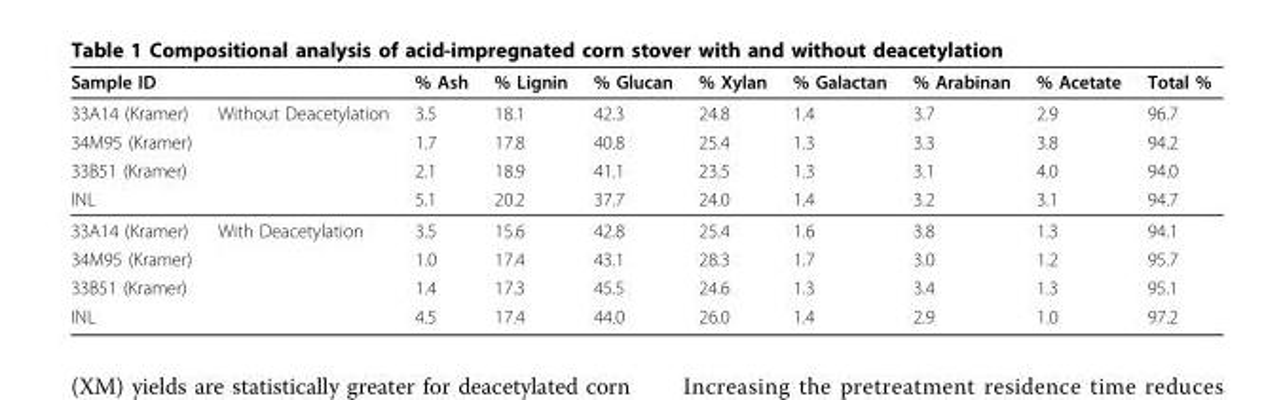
<table><thead><tr><td>Sample ID</td><td></td><td>% Ash</td><td>% Lignin</td><td>% Glucan</td><td>% Xylan</td><td>% Galactan</td><td>% Arabinan</td><td>% Acetate</td><td>Total %</td></tr></thead><tbody><tr><td>33A14 (Kramer)</td><td>Without Deacetylation</td><td>3.5</td><td>18.1</td><td>42.3</td><td>24.8</td><td>1.4</td><td>3.7</td><td>2.9</td><td>96.7</td></tr><tr><td>34M95 (Kramer)</td><td></td><td>1.7</td><td>17.8</td><td>40.8</td><td>25.4</td><td>1.3</td><td>3.3</td><td>3.8</td><td>94.2</td></tr><tr><td>33B51 (Kramer)</td><td></td><td>2.1</td><td>18.9</td><td>41.1</td><td>23.5</td><td>1.3</td><td>3.1</td><td>4.0</td><td>94.0</td></tr><tr><td>INL</td><td></td><td>5.1</td><td>20.2</td><td>37.7</td><td>24.0</td><td>1.4</td><td>3.2</td><td>3.1</td><td>94.7</td></tr><tr><td>33A14 (Kramer)</td><td>With Deacetylation</td><td>3.5</td><td>15.6</td><td>42.8</td><td>25.4</td><td>1.6</td><td>3.8</td><td>1.3</td><td>94.1</td></tr><tr><td>34M95 (Kramer)</td><td></td><td>1.0</td><td>17.4</td><td>43.1</td><td>28.3</td><td>1.7</td><td>3.0</td><td>1.2</td><td>95.7</td></tr><tr><td>33B51 (Kramer)</td><td></td><td>1.4</td><td>17.3</td><td>45.5</td><td>24.6</td><td>1.3</td><td>3.4</td><td>1.3</td><td>95.1</td></tr><tr><td>INL</td><td></td><td>4.5</td><td>17.4</td><td>44.0</td><td>26.0</td><td>1.4</td><td>2.9</td><td>1.0</td><td>97.2</td></tr></tbody></table>